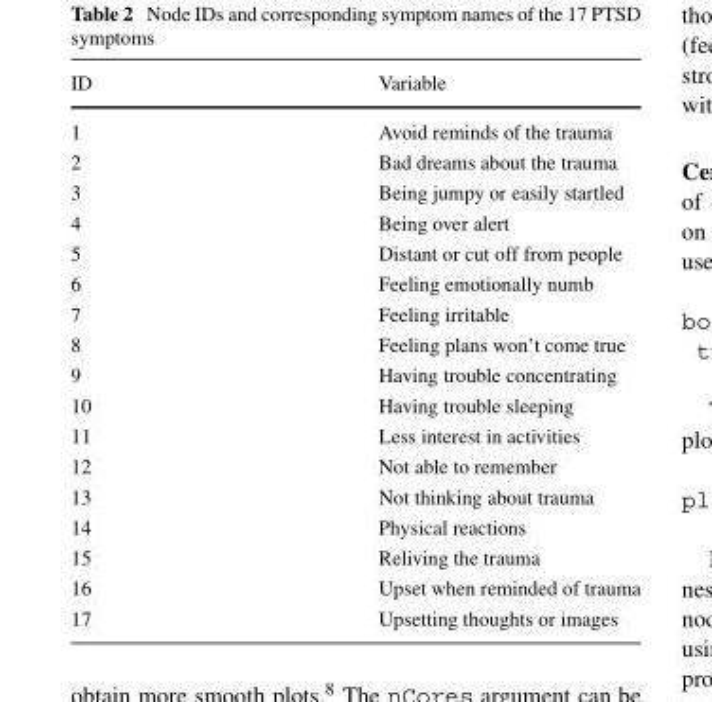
<table><thead><tr><td>ID</td><td>Variable</td></tr></thead><tbody><tr><td>1</td><td>Avoid reminds of the trauma</td></tr><tr><td>2</td><td>Bad dreams about the trauma</td></tr><tr><td>3</td><td>Being jumpy or easily startled</td></tr><tr><td>4</td><td>Being over alert</td></tr><tr><td>5</td><td>Distant or cut off from people</td></tr><tr><td>6</td><td>Feeling emotionally numb</td></tr><tr><td>7</td><td>Feeling irritable</td></tr><tr><td>8</td><td>Feeling plans won’t come true</td></tr><tr><td>9</td><td>Having trouble concentrating</td></tr><tr><td>10</td><td>Having trouble sleeping</td></tr><tr><td>11</td><td>Less interest in activities</td></tr><tr><td>12</td><td>Not able to remember</td></tr><tr><td>13</td><td>Not thinking about trauma</td></tr><tr><td>14</td><td>Physical reactions</td></tr><tr><td>15</td><td>Reliving the trauma</td></tr><tr><td>16</td><td>Upset when reminded of trauma</td></tr><tr><td>17</td><td>Upsetting thoughts or images</td></tr></tbody></table>